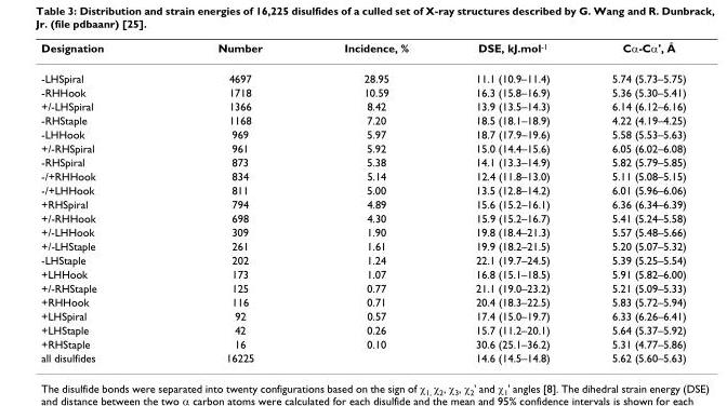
<table><thead><tr><td>Designation</td><td>Number</td><td>Incidence, %</td><td>DSE, kJ.mol<sup>-1</sup></td><td>Cα-Cα&#x27;, Å</td></tr></thead><tbody><tr><td>-LHSpiral</td><td>4697</td><td>28.95</td><td>11.1 (10.9–11.4)</td><td>5.74 (5.73–5.75)</td></tr><tr><td>-RHHook</td><td>1718</td><td>10.59</td><td>16.3 (15.8–16.9)</td><td>5.36 (5.30–5.41)</td></tr><tr><td>+/-LHSpiral</td><td>1366</td><td>8.42</td><td>13.9 (13.5–14.3)</td><td>6.14 (6.12–6.16)</td></tr><tr><td>-RHStaple</td><td>1168</td><td>7.20</td><td>18.5 (18.1–18.9)</td><td>4.22 (4.19–4.25)</td></tr><tr><td>-LHHook</td><td>969</td><td>5.97</td><td>18.7 (17.9–19.6)</td><td>5.58 (5.53–5.63)</td></tr><tr><td>+/-RHSpiral</td><td>961</td><td>5.92</td><td>15.0 (14.4–15.6)</td><td>6.05 (6.02–6.08)</td></tr><tr><td>-RHSpiral</td><td>873</td><td>5.38</td><td>14.1 (13.3–14.9)</td><td>5.82 (5.79–5.85)</td></tr><tr><td>-/+RHHook</td><td>834</td><td>5.14</td><td>12.4 (11.8–13.0)</td><td>5.11 (5.08–5.15)</td></tr><tr><td>-/+LHHook</td><td>811</td><td>5.00</td><td>13.5 (12.8–14.2)</td><td>6.01 (5.96–6.06)</td></tr><tr><td>+RHSpiral</td><td>794</td><td>4.89</td><td>15.6 (15.2–16.1)</td><td>6.36 (6.34–6.39)</td></tr><tr><td>+/-RHHook</td><td>698</td><td>4.30</td><td>15.9 (15.2–16.7)</td><td>5.41 (5.24–5.58)</td></tr><tr><td>+/-LHHook</td><td>309</td><td>1.90</td><td>19.8 (18.4–21.3)</td><td>5.57 (5.48–5.66)</td></tr><tr><td>+/-LHStaple</td><td>261</td><td>1.61</td><td>19.9 (18.2–21.5)</td><td>5.20 (5.07–5.32)</td></tr><tr><td>-LHStaple</td><td>202</td><td>1.24</td><td>22.1 (19.7–24.5)</td><td>5.39 (5.25–5.54)</td></tr><tr><td>+LHHook</td><td>173</td><td>1.07</td><td>16.8 (15.1–18.5)</td><td>5.91 (5.82–6.00)</td></tr><tr><td>+/-RHStaple</td><td>125</td><td>0.77</td><td>21.1 (19.0–23.2)</td><td>5.21 (5.09–5.33)</td></tr><tr><td>+RHHook</td><td>116</td><td>0.71</td><td>20.4 (18.3–22.5)</td><td>5.83 (5.72–5.94)</td></tr><tr><td>+LHSpiral</td><td>92</td><td>0.57</td><td>17.4 (15.0–19.7)</td><td>6.33 (6.26–6.41)</td></tr><tr><td>+LHStaple</td><td>42</td><td>0.26</td><td>15.7 (11.2–20.1)</td><td>5.64 (5.37–5.92)</td></tr><tr><td>+RHStaple</td><td>16</td><td>0.10</td><td>30.6 (25.1–36.2)</td><td>5.31 (4.77–5.86)</td></tr><tr><td>all disulfides</td><td>16225</td><td></td><td>14.6 (14.5–14.8)</td><td>5.62 (5.60–5.63)</td></tr></tbody></table>